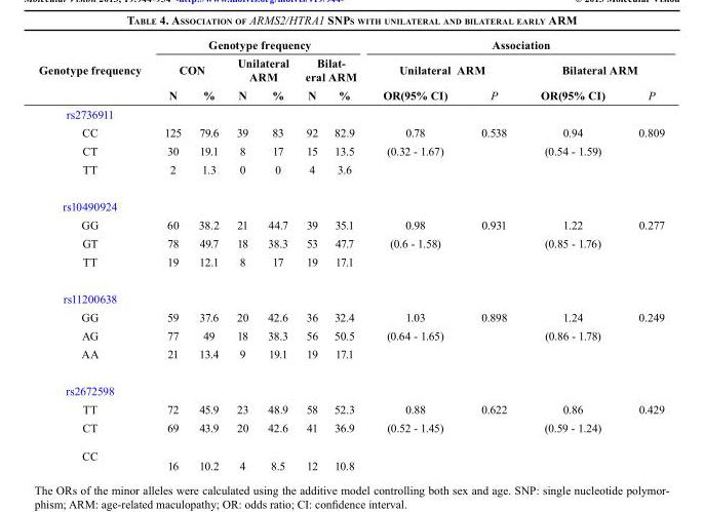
<table><thead><tr><td rowspan="3">Genotype frequency</td><td colspan="6">Genotype frequency</td><td colspan="4">Association</td></tr><tr><td colspan="2">CON</td><td colspan="2">Unilateral ARM</td><td colspan="2">Bilat- eral ARM</td><td colspan="2">Unilateral ARM</td><td colspan="2">Bilateral ARM</td></tr><tr><td>N</td><td>%</td><td>N</td><td>%</td><td>N</td><td>%</td><td>OR(95% CI)</td><td>P</td><td>OR(95% CI)</td><td>P</td></tr></thead><tbody><tr><td colspan="11">rs2736911</td></tr><tr><td>CC</td><td>125</td><td>79.6</td><td>39</td><td>83</td><td>92</td><td>82.9</td><td>0.78</td><td>0.538</td><td>0.94</td><td>0.809</td></tr><tr><td>CT</td><td>30</td><td>19.1</td><td>8</td><td>17</td><td>15</td><td>13.5</td><td>(0.32 - 1.67)</td><td></td><td>(0.54 - 1.59)</td><td></td></tr><tr><td>TT</td><td>2</td><td>1.3</td><td>0</td><td>0</td><td>4</td><td>3.6</td><td></td><td></td><td></td><td></td></tr><tr><td colspan="11">rs10490924</td></tr><tr><td>GG</td><td>60</td><td>38.2</td><td>21</td><td>44.7</td><td>39</td><td>35.1</td><td>0.98</td><td>0.931</td><td>1.22</td><td>0.277</td></tr><tr><td>GT</td><td>78</td><td>49.7</td><td>18</td><td>38.3</td><td>53</td><td>47.7</td><td>(0.6 - 1.58)</td><td></td><td>(0.85 - 1.76)</td><td></td></tr><tr><td>TT</td><td>19</td><td>12.1</td><td>8</td><td>17</td><td>19</td><td>17.1</td><td></td><td></td><td></td><td></td></tr><tr><td colspan="11">rs11200638</td></tr><tr><td>GG</td><td>59</td><td>37.6</td><td>20</td><td>42.6</td><td>36</td><td>32.4</td><td>1.03</td><td>0.898</td><td>1.24</td><td>0.249</td></tr><tr><td>AG</td><td>77</td><td>49</td><td>18</td><td>38.3</td><td>56</td><td>50.5</td><td>(0.64 - 1.65)</td><td></td><td>(0.86 - 1.78)</td><td></td></tr><tr><td>AA</td><td>21</td><td>13.4</td><td>9</td><td>19.1</td><td>19</td><td>17.1</td><td></td><td></td><td></td><td></td></tr><tr><td colspan="11">rs2672598</td></tr><tr><td>TT</td><td>72</td><td>45.9</td><td>23</td><td>48.9</td><td>58</td><td>52.3</td><td>0.88</td><td>0.622</td><td>0.86</td><td>0.429</td></tr><tr><td>CT</td><td>69</td><td>43.9</td><td>20</td><td>42.6</td><td>41</td><td>36.9</td><td>(0.52 - 1.45)</td><td></td><td>(0.59 - 1.24)</td><td></td></tr><tr><td>CC</td><td>16</td><td>10.2</td><td>4</td><td>8.5</td><td>12</td><td>10.8</td><td></td><td></td><td></td><td></td></tr></tbody></table>